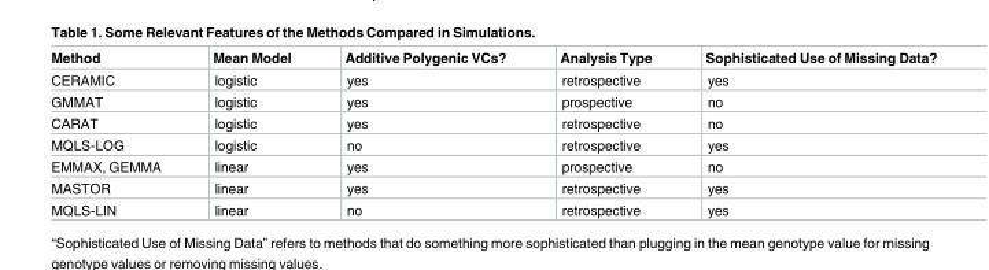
<table><thead><tr><td>Method</td><td>Mean Model</td><td>Additive Polygenic VCs?</td><td>Analysis Type</td><td>Sophisticated Use of Missing Data?</td></tr></thead><tbody><tr><td>CERAMIC</td><td>logistic</td><td>yes</td><td>retrospective</td><td>yes</td></tr><tr><td>GMMAT</td><td>logistic</td><td>yes</td><td>prospective</td><td>no</td></tr><tr><td>CARAT</td><td>logistic</td><td>yes</td><td>retrospective</td><td>no</td></tr><tr><td>MQLS-LOG</td><td>logistic</td><td>no</td><td>retrospective</td><td>yes</td></tr><tr><td>EMMAX, GEMMA</td><td>linear</td><td>yes</td><td>prospective</td><td>no</td></tr><tr><td>MASTOR</td><td>linear</td><td>yes</td><td>retrospective</td><td>yes</td></tr><tr><td>MQLS-LIN</td><td>linear</td><td>no</td><td>retrospective</td><td>yes</td></tr></tbody></table>